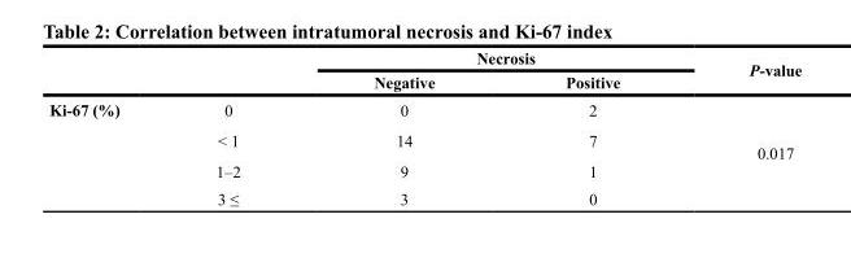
<table><thead><tr><td rowspan="2"></td><td rowspan="2"></td><td colspan="2">Necrosis</td><td rowspan="2">P-value</td></tr><tr><td>Negative</td><td>Positive</td></tr></thead><tbody><tr><td rowspan="4">Ki-67 (%)</td><td>0</td><td>0</td><td>2</td><td rowspan="4">0.017</td></tr><tr><td>&lt; 1</td><td>14</td><td>7</td></tr><tr><td>1–2</td><td>9</td><td>1</td></tr><tr><td>3 ≤</td><td>3</td><td>0</td></tr></tbody></table>